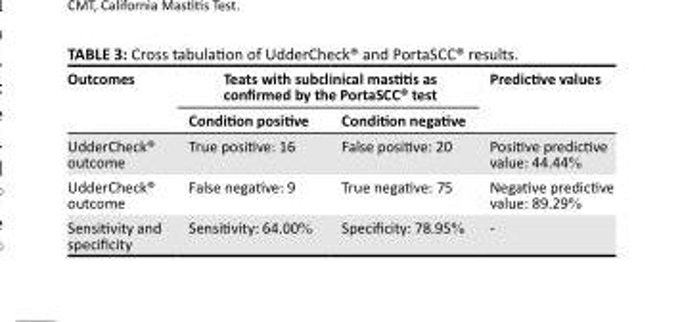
<table><thead><tr><td rowspan="2">Outcomes</td><td colspan="2">Teats with subclinical mastitis as confirmed by the PortaSCC<sup>®</sup> test</td><td rowspan="2">Predictive values</td></tr><tr><td>Condition positive</td><td>Condition negative</td></tr></thead><tbody><tr><td>UdderCheck<sup>®</sup> outcome</td><td>True positive: 16</td><td>False positive: 20</td><td>Positive predictive value: 44.44%</td></tr><tr><td>UdderCheck<sup>®</sup> outcome</td><td>False negative: 9</td><td>True negative: 75</td><td>Negative predictive value: 89.29%</td></tr><tr><td>Sensitivity and specificity</td><td>Sensitivity: 64.00%</td><td>Specificity: 78.95%</td><td>-</td></tr></tbody></table>